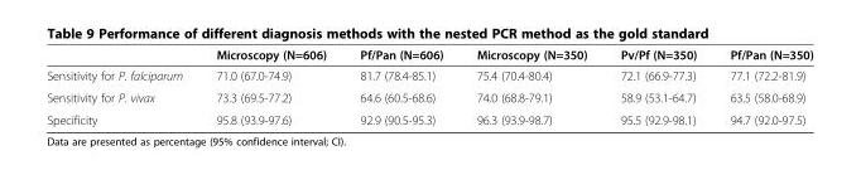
<table><thead><tr><td></td><td>Microscopy (N=606)</td><td>Pf/Pan (N=606)</td><td>Microscopy (N=350)</td><td>Pv/Pf (N=350)</td><td>Pf/Pan (N=350)</td></tr></thead><tbody><tr><td>Sensitivity for P. falciparum</td><td>71.0 (67.0-74.9)</td><td>81.7 (78.4-85.1)</td><td>75.4 (70.4-80.4)</td><td>72.1 (66.9-77.3)</td><td>77.1 (72.2-81.9)</td></tr><tr><td>Sensitivity for P. vivax</td><td>73.3 (69.5-77.2)</td><td>64.6 (60.5-68.6)</td><td>74.0 (68.8-79.1)</td><td>58.9 (53.1-64.7)</td><td>63.5 (58.0-68.9)</td></tr><tr><td>Specificity</td><td>95.8 (93.9-97.6)</td><td>92.9 (90.5-95.3)</td><td>96.3 (93.9-98.7)</td><td>95.5 (92.9-98.1)</td><td>94.7 (92.0-97.5)</td></tr></tbody></table>